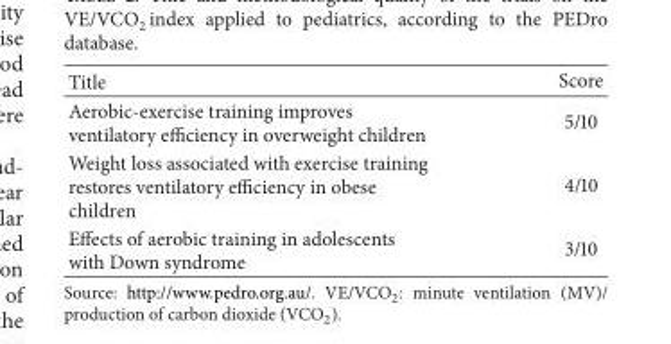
<table><thead><tr><td>Title</td><td>Score</td></tr></thead><tbody><tr><td>Aerobic-exercise training improves ventilatory efficiency in overweight children</td><td>5/10</td></tr><tr><td>Weight loss associated with exercise training restores ventilatory efficiency in obese children</td><td>4/10</td></tr><tr><td>Effects of aerobic training in adolescents with Down syndrome</td><td>3/10</td></tr></tbody></table>